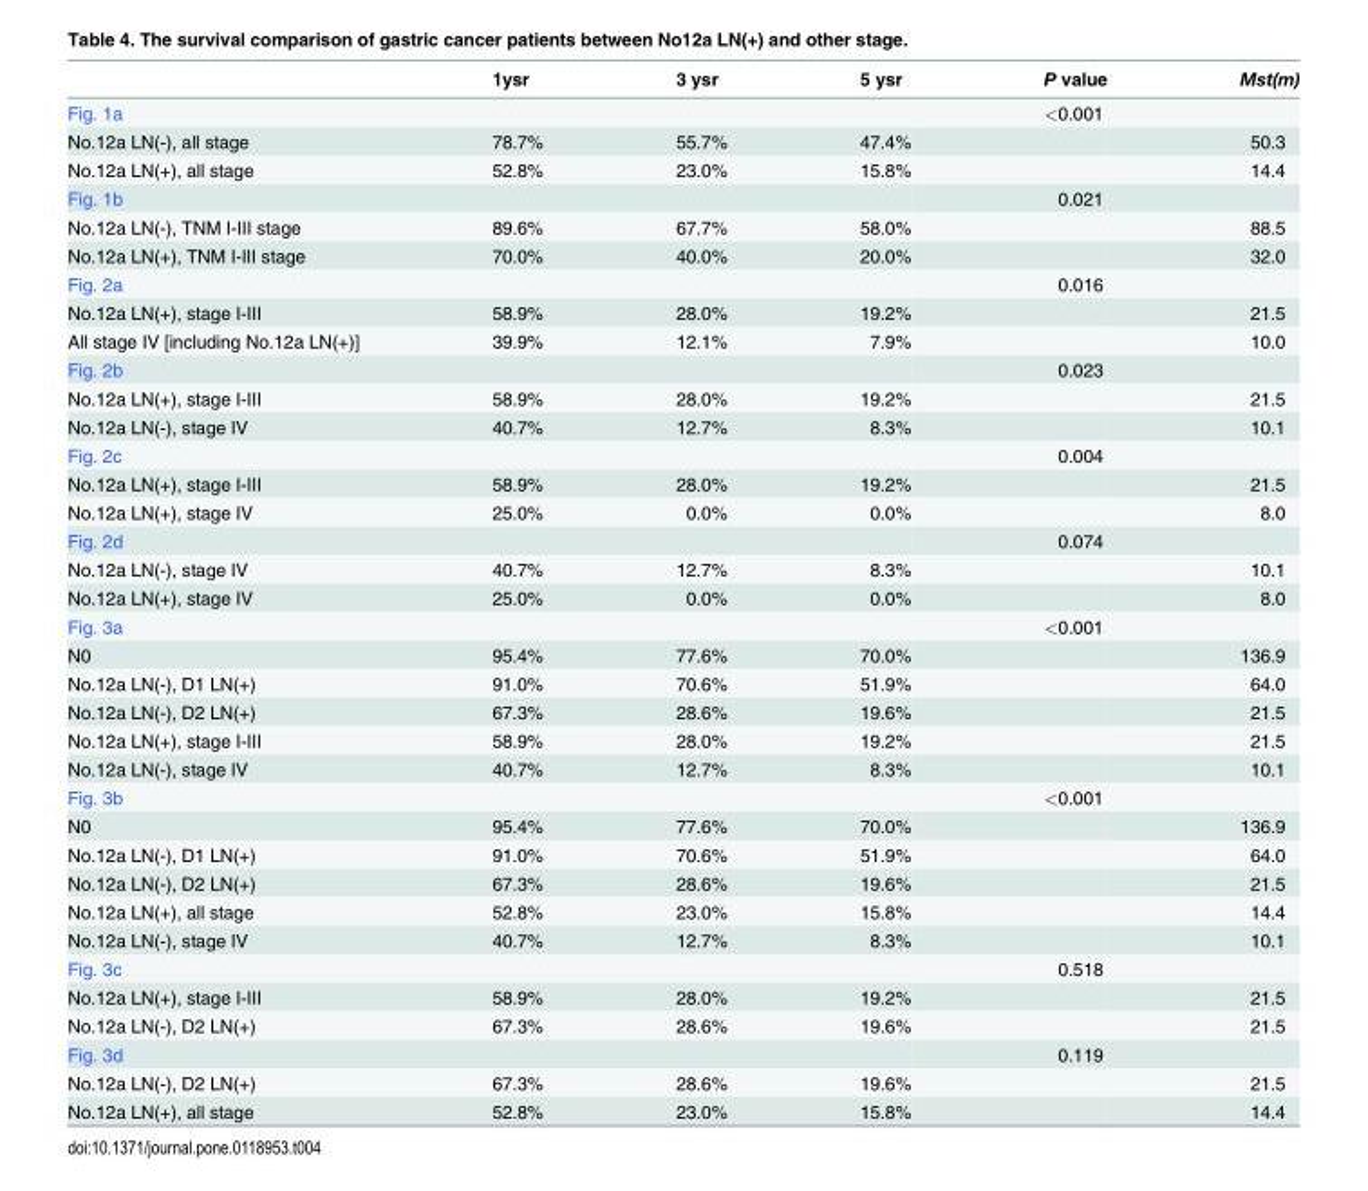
<table><thead><tr><td></td><td>1ysr</td><td>3 ysr</td><td>5 ysr</td><td>P value</td><td>Mst(m)</td></tr></thead><tbody><tr><td>Fig. 1a</td><td></td><td></td><td></td><td>&lt;0.001</td><td></td></tr><tr><td>No.12a LN(-), all stage</td><td>78.7%</td><td>55.7%</td><td>47.4%</td><td></td><td>50.3</td></tr><tr><td>No.12a LN(+), all stage</td><td>52.8%</td><td>23.0%</td><td>15.8%</td><td></td><td>14.4</td></tr><tr><td>Fig. 1b</td><td></td><td></td><td></td><td>0.021</td><td></td></tr><tr><td>No.12a LN(-), TNM I-III stage</td><td>89.6%</td><td>67.7%</td><td>58.0%</td><td></td><td>88.5</td></tr><tr><td>No.12a LN(+), TNM I-III stage</td><td>70.0%</td><td>40.0%</td><td>20.0%</td><td></td><td>32.0</td></tr><tr><td>Fig. 2a</td><td></td><td></td><td></td><td>0.016</td><td></td></tr><tr><td>No.12a LN(+), stage I-III</td><td>58.9%</td><td>28.0%</td><td>19.2%</td><td></td><td>21.5</td></tr><tr><td>All stage IV [including No.12a LN(+)]</td><td>39.9%</td><td>12.1%</td><td>7.9%</td><td></td><td>10.0</td></tr><tr><td>Fig. 2b</td><td></td><td></td><td></td><td>0.023</td><td></td></tr><tr><td>No.12a LN(+), stage I-III</td><td>58.9%</td><td>28.0%</td><td>19.2%</td><td></td><td>21.5</td></tr><tr><td>No.12a LN(-), stage IV</td><td>40.7%</td><td>12.7%</td><td>8.3%</td><td></td><td>10.1</td></tr><tr><td>Fig. 2c</td><td></td><td></td><td></td><td>0.004</td><td></td></tr><tr><td>No.12a LN(+), stage I-III</td><td>58.9%</td><td>28.0%</td><td>19.2%</td><td></td><td>21.5</td></tr><tr><td>No.12a LN(+), stage IV</td><td>25.0%</td><td>0.0%</td><td>0.0%</td><td></td><td>8.0</td></tr><tr><td>Fig. 2d</td><td></td><td></td><td></td><td>0.074</td><td></td></tr><tr><td>No.12a LN(-), stage IV</td><td>40.7%</td><td>12.7%</td><td>8.3%</td><td></td><td>10.1</td></tr><tr><td>No.12a LN(+), stage IV</td><td>25.0%</td><td>0.0%</td><td>0.0%</td><td></td><td>8.0</td></tr><tr><td>Fig. 3a</td><td></td><td></td><td></td><td>&lt;0.001</td><td></td></tr><tr><td>N0</td><td>95.4%</td><td>77.6%</td><td>70.0%</td><td></td><td>136.9</td></tr><tr><td>No.12a LN(-), D1 LN(+)</td><td>91.0%</td><td>70.6%</td><td>51.9%</td><td></td><td>64.0</td></tr><tr><td>No.12a LN(-), D2 LN(+)</td><td>67.3%</td><td>28.6%</td><td>19.6%</td><td></td><td>21.5</td></tr><tr><td>No.12a LN(+), stage I-III</td><td>58.9%</td><td>28.0%</td><td>19.2%</td><td></td><td>21.5</td></tr><tr><td>No.12a LN(-), stage IV</td><td>40.7%</td><td>12.7%</td><td>8.3%</td><td></td><td>10.1</td></tr><tr><td>Fig. 3b</td><td></td><td></td><td></td><td>&lt;0.001</td><td></td></tr><tr><td>N0</td><td>95.4%</td><td>77.6%</td><td>70.0%</td><td></td><td>136.9</td></tr><tr><td>No.12a LN(-), D1 LN(+)</td><td>91.0%</td><td>70.6%</td><td>51.9%</td><td></td><td>64.0</td></tr><tr><td>No.12a LN(-), D2 LN(+)</td><td>67.3%</td><td>28.6%</td><td>19.6%</td><td></td><td>21.5</td></tr><tr><td>No.12a LN(+), all stage</td><td>52.8%</td><td>23.0%</td><td>15.8%</td><td></td><td>14.4</td></tr><tr><td>No.12a LN(-), stage IV</td><td>40.7%</td><td>12.7%</td><td>8.3%</td><td></td><td>10.1</td></tr><tr><td>Fig. 3c</td><td></td><td></td><td></td><td>0.518</td><td></td></tr><tr><td>No.12a LN(+), stage I-III</td><td>58.9%</td><td>28.0%</td><td>19.2%</td><td></td><td>21.5</td></tr><tr><td>No.12a LN(-), D2 LN(+)</td><td>67.3%</td><td>28.6%</td><td>19.6%</td><td></td><td>21.5</td></tr><tr><td>Fig. 3d</td><td></td><td></td><td></td><td>0.119</td><td></td></tr><tr><td>No.12a LN(-), D2 LN(+)</td><td>67.3%</td><td>28.6%</td><td>19.6%</td><td></td><td>21.5</td></tr><tr><td>No.12a LN(+), all stage</td><td>52.8%</td><td>23.0%</td><td>15.8%</td><td></td><td>14.4</td></tr></tbody></table>